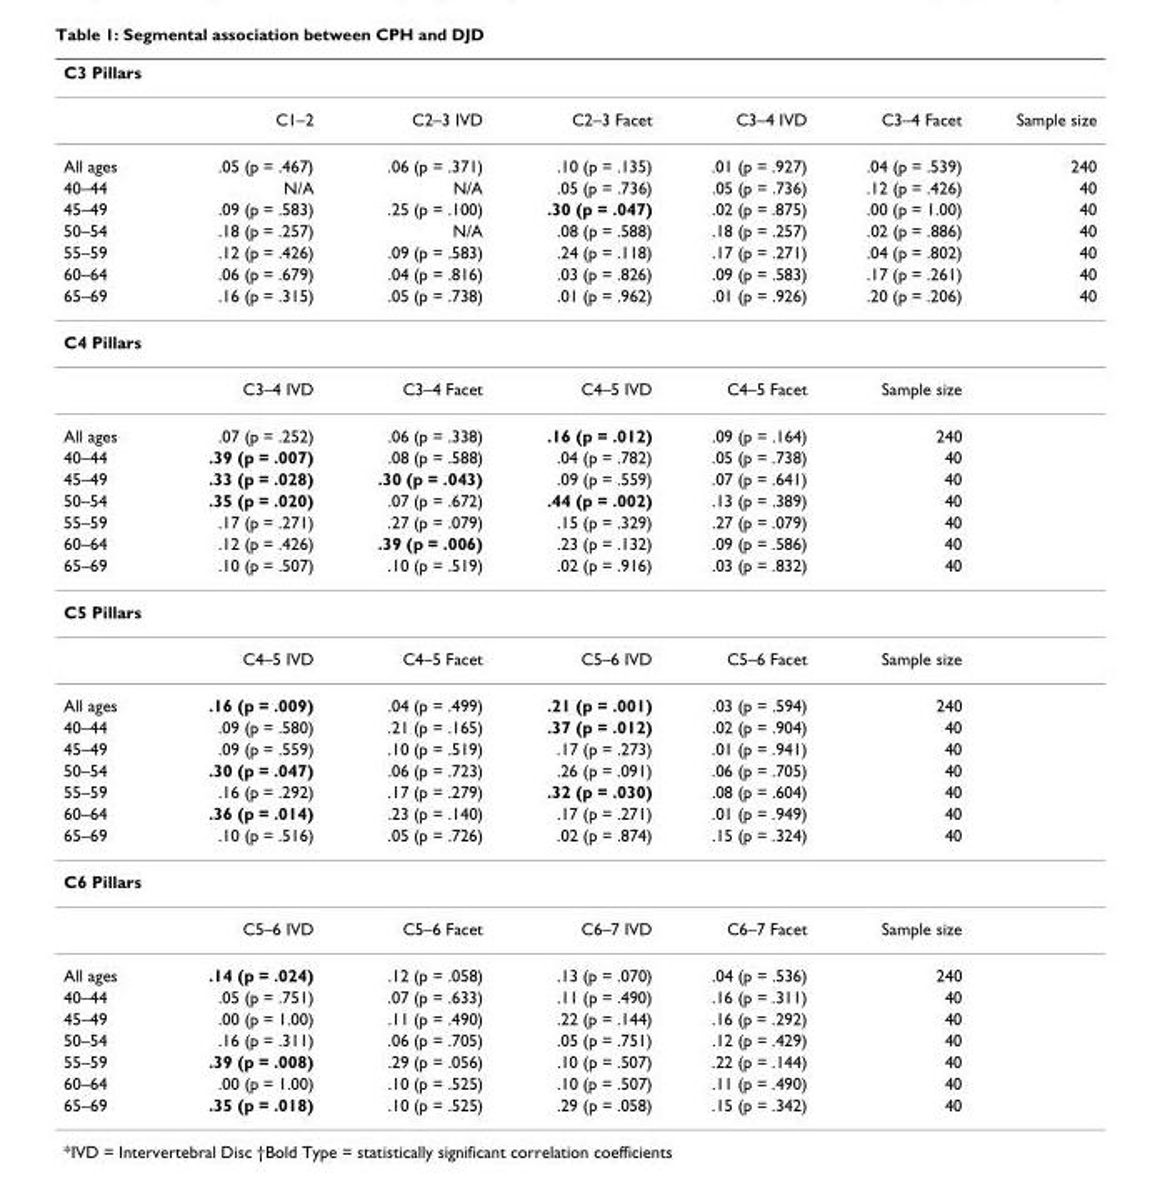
<table><thead><tr><td colspan="7">C3 Pillars</td></tr><tr><td></td><td>C1–2</td><td>C2–3 IVD</td><td>C2–3 Facet</td><td>C3–4 IVD</td><td>C3–4 Facet</td><td>Sample size</td></tr></thead><tbody><tr><td>All ages</td><td>.05 (p = .467)</td><td>.06 (p = .371)</td><td>.10 (p = .135)</td><td>.01 (p = .927)</td><td>.04 (p = .539)</td><td>240</td></tr><tr><td>40–44</td><td>N/A</td><td>N/A</td><td>.05 (p = .736)</td><td>.05 (p = .736)</td><td>.12 (p = .426)</td><td>40</td></tr><tr><td>45–49</td><td>.09 (p = .583)</td><td>.25 (p = .100)</td><td>.30 (p = .047)</td><td>.02 (p = .875)</td><td>.00 (p = 1.00)</td><td>40</td></tr><tr><td>50–54</td><td>.18 (p = .257)</td><td>N/A</td><td>.08 (p = .588)</td><td>.18 (p = .257)</td><td>.02 (p = .886)</td><td>40</td></tr><tr><td>55–59</td><td>.12 (p = .426)</td><td>.09 (p = .583)</td><td>.24 (p = .118)</td><td>.17 (p = .271)</td><td>.04 (p = .802)</td><td>40</td></tr><tr><td>60–64</td><td>.06 (p = .679)</td><td>.04 (p = .816)</td><td>.03 (p = .826)</td><td>.09 (p = .583)</td><td>.17 (p = .261)</td><td>40</td></tr><tr><td>65–69</td><td>.16 (p = .315)</td><td>.05 (p = .738)</td><td>.01 (p = .962)</td><td>.01 (p = .926)</td><td>.20 (p = .206)</td><td>40</td></tr><tr><td colspan="7">C4 Pillars</td></tr><tr><td></td><td>C3–4 IVD</td><td>C3–4 Facet</td><td>C4–5 IVD</td><td>C4–5 Facet</td><td>Sample size</td><td></td></tr><tr><td>All ages</td><td>.07 (p = .252)</td><td>.06 (p = .338)</td><td>.16 (p = .012)</td><td>.09 (p = .164)</td><td>240</td><td></td></tr><tr><td>40–44</td><td>.39 (p = .007)</td><td>.08 (p = .588)</td><td>.04 (p = .782)</td><td>.05 (p = .738)</td><td>40</td><td></td></tr><tr><td>45–49</td><td>.33 (p = .028)</td><td>.30 (p = .043)</td><td>.09 (p = .559)</td><td>.07 (p = .641)</td><td>40</td><td></td></tr><tr><td>50–54</td><td>.35 (p = .020)</td><td>.07 (p = .672)</td><td>.44 (p = .002)</td><td>.13 (p = .389)</td><td>40</td><td></td></tr><tr><td>55–59</td><td>.17 (p = .271)</td><td>.27 (p = .079)</td><td>.15 (p = .329)</td><td>.27 (p = .079)</td><td>40</td><td></td></tr><tr><td>60–64</td><td>.12 (p = .426)</td><td>.39 (p = .006)</td><td>.23 (p = .132)</td><td>.09 (p = .586)</td><td>40</td><td></td></tr><tr><td>65–69</td><td>.10 (p = .507)</td><td>.10 (p = .519)</td><td>.02 (p = .916)</td><td>.03 (p = .832)</td><td>40</td><td></td></tr><tr><td colspan="7">C5 Pillars</td></tr><tr><td></td><td>C4–5 IVD</td><td>C4–5 Facet</td><td>C5–6 IVD</td><td>C5–6 Facet</td><td>Sample size</td><td></td></tr><tr><td>All ages</td><td>.16 (p = .009)</td><td>.04 (p = .499)</td><td>.21 (p = .001)</td><td>.03 (p = .594)</td><td>240</td><td></td></tr><tr><td>40–44</td><td>.09 (p = .580)</td><td>.21 (p = .165)</td><td>.37 (p = .012)</td><td>.02 (p = .904)</td><td>40</td><td></td></tr><tr><td>45–49</td><td>.09 (p = .559)</td><td>.10 (p = .519)</td><td>.17 (p = .273)</td><td>.01 (p = .941)</td><td>40</td><td></td></tr><tr><td>50–54</td><td>.30 (p = .047)</td><td>.06 (p = .723)</td><td>.26 (p = .091)</td><td>.06 (p = .705)</td><td>40</td><td></td></tr><tr><td>55–59</td><td>.16 (p = .292)</td><td>.17 (p = .279)</td><td>.32 (p = .030)</td><td>.08 (p = .604)</td><td>40</td><td></td></tr><tr><td>60–64</td><td>.36 (p = .014)</td><td>.23 (p = .140)</td><td>.17 (p = .271)</td><td>.01 (p = .949)</td><td>40</td><td></td></tr><tr><td>65–69</td><td>.10 (p = .516)</td><td>.05 (p = .726)</td><td>.02 (p = .874)</td><td>.15 (p = .324)</td><td>40</td><td></td></tr><tr><td colspan="7">C6 Pillars</td></tr><tr><td></td><td>C5–6 IVD</td><td>C5–6 Facet</td><td>C6–7 IVD</td><td>C6–7 Facet</td><td>Sample size</td><td></td></tr><tr><td>All ages</td><td>.14 (p = .024)</td><td>.12 (p = .058)</td><td>.13 (p = .070)</td><td>.04 (p = .536)</td><td>240</td><td></td></tr><tr><td>40–44</td><td>.05 (p = .751)</td><td>.07 (p = .633)</td><td>.11 (p = .490)</td><td>.16 (p = .311)</td><td>40</td><td></td></tr><tr><td>45–49</td><td>.00 (p = 1.00)</td><td>.11 (p = .490)</td><td>.22 (p = .144)</td><td>.16 (p = .292)</td><td>40</td><td></td></tr><tr><td>50–54</td><td>.16 (p = .311)</td><td>.06 (p = .705)</td><td>.05 (p = .751)</td><td>.12 (p = .429)</td><td>40</td><td></td></tr><tr><td>55–59</td><td>.39 (p = .008)</td><td>.29 (p = .056)</td><td>.10 (p = .507)</td><td>.22 (p = .144)</td><td>40</td><td></td></tr><tr><td>60–64</td><td>.00 (p = 1.00)</td><td>.10 (p = .525)</td><td>.10 (p = .507)</td><td>.11 (p = .490)</td><td>40</td><td></td></tr><tr><td>65–69</td><td>.35 (p = .018)</td><td>.10 (p = .525)</td><td>.29 (p = .058)</td><td>.15 (p = .342)</td><td>40</td><td></td></tr></tbody></table>